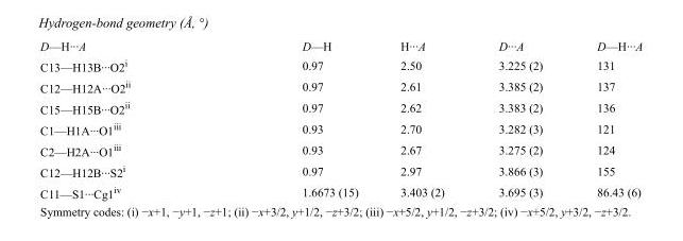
<table><tbody><tr><td>D—H···A</td><td>D—H</td><td>H···A</td><td>D···A</td><td>D—H···A</td></tr><tr><td>C13—H13B···O2<sup>i</sup></td><td>0.97</td><td>2.50</td><td>3.225 (2)</td><td>131</td></tr><tr><td>C12—H12A···O2<sup>ii</sup></td><td>0.97</td><td>2.61</td><td>3.385 (2)</td><td>137</td></tr><tr><td>C15—H15B···O2<sup>ii</sup></td><td>0.97</td><td>2.62</td><td>3.383 (2)</td><td>136</td></tr><tr><td>C1—H1A···O1<sup>iii</sup></td><td>0.93</td><td>2.70</td><td>3.282 (3)</td><td>121</td></tr><tr><td>C2—H2A···O1<sup>iii</sup></td><td>0.93</td><td>2.67</td><td>3.275 (2)</td><td>124</td></tr><tr><td>C12—H12B···S2<sup>i</sup></td><td>0.97</td><td>2.97</td><td>3.866 (3)</td><td>155</td></tr><tr><td>C11—S1···Cg1<sup>iv</sup></td><td>1.6673 (15)</td><td>3.403 (2)</td><td>3.695 (3)</td><td>86.43 (6)</td></tr></tbody></table>